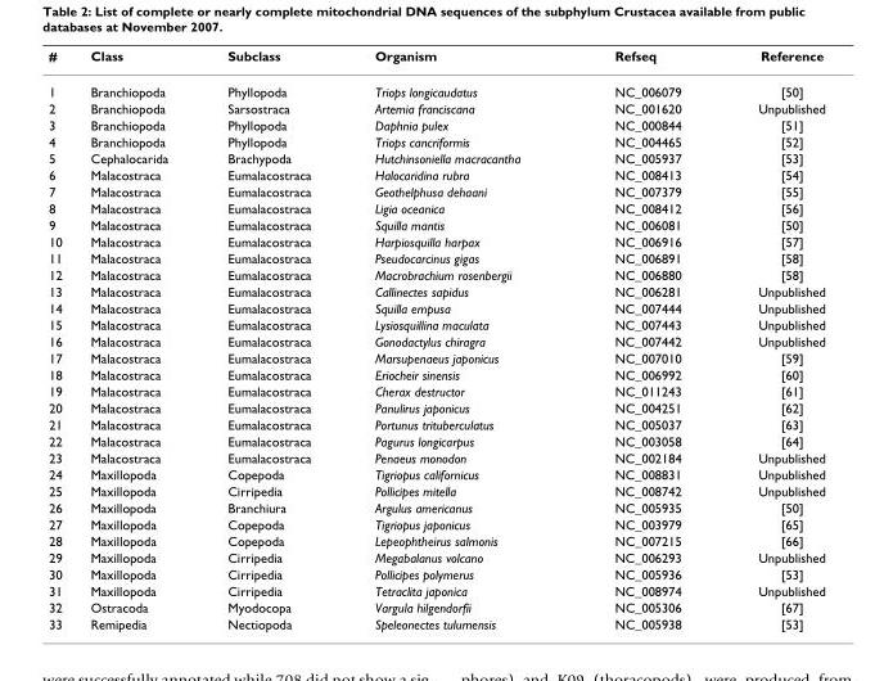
<table><thead><tr><td>#</td><td>Class</td><td>Subclass</td><td>Organism</td><td>Refseq</td><td>Reference</td></tr></thead><tbody><tr><td>1</td><td>Branchiopoda</td><td>Phyllopoda</td><td>Triops longicaudatus</td><td>NC_006079</td><td>[50]</td></tr><tr><td>2</td><td>Branchiopoda</td><td>Sarsostraca</td><td>Artemia franciscana</td><td>NC_001620</td><td>Unpublished</td></tr><tr><td>3</td><td>Branchiopoda</td><td>Phyllopoda</td><td>Daphnia pulex</td><td>NC_000844</td><td>[51]</td></tr><tr><td>4</td><td>Branchiopoda</td><td>Phyllopoda</td><td>Triops cancriformis</td><td>NC_004465</td><td>[52]</td></tr><tr><td>5</td><td>Cephalocarida</td><td>Brachypoda</td><td>Hutchinsoniella macracantha</td><td>NC_005937</td><td>[53]</td></tr><tr><td>6</td><td>Malacostraca</td><td>Eumalacostraca</td><td>Halocaridina rubra</td><td>NC_008413</td><td>[54]</td></tr><tr><td>7</td><td>Malacostraca</td><td>Eumalacostraca</td><td>Geothelphusa dehaani</td><td>NC_007379</td><td>[55]</td></tr><tr><td>8</td><td>Malacostraca</td><td>Eumalacostraca</td><td>Ligia oceanica</td><td>NC_008412</td><td>[56]</td></tr><tr><td>9</td><td>Malacostraca</td><td>Eumalacostraca</td><td>Squilla mantis</td><td>NC_006081</td><td>[50]</td></tr><tr><td>10</td><td>Malacostraca</td><td>Eumalacostraca</td><td>Harpiosquilla harpax</td><td>NC_006916</td><td>[57]</td></tr><tr><td>11</td><td>Malacostraca</td><td>Eumalacostraca</td><td>Pseudocarcinus gigas</td><td>NC_006891</td><td>[58]</td></tr><tr><td>12</td><td>Malacostraca</td><td>Eumalacostraca</td><td>Macrobrachium rosenbergii</td><td>NC_006880</td><td>[58]</td></tr><tr><td>13</td><td>Malacostraca</td><td>Eumalacostraca</td><td>Callinectes sapidus</td><td>NC_006281</td><td>Unpublished</td></tr><tr><td>14</td><td>Malacostraca</td><td>Eumalacostraca</td><td>Squilla empusa</td><td>NC_007444</td><td>Unpublished</td></tr><tr><td>15</td><td>Malacostraca</td><td>Eumalacostraca</td><td>Lysiosquillina maculata</td><td>NC_007443</td><td>Unpublished</td></tr><tr><td>16</td><td>Malacostraca</td><td>Eumalacostraca</td><td>Gonodactylus chiragra</td><td>NC_007442</td><td>Unpublished</td></tr><tr><td>17</td><td>Malacostraca</td><td>Eumalacostraca</td><td>Marsupenaeus japonicus</td><td>NC_007010</td><td>[59]</td></tr><tr><td>18</td><td>Malacostraca</td><td>Eumalacostraca</td><td>Eriocheir sinensis</td><td>NC_006992</td><td>[60]</td></tr><tr><td>19</td><td>Malacostraca</td><td>Eumalacostraca</td><td>Cherax destructor</td><td>NC_011243</td><td>[61]</td></tr><tr><td>20</td><td>Malacostraca</td><td>Eumalacostraca</td><td>Panulirus japonicus</td><td>NC_004251</td><td>[62]</td></tr><tr><td>21</td><td>Malacostraca</td><td>Eumalacostraca</td><td>Portunus trituberculatus</td><td>NC_005037</td><td>[63]</td></tr><tr><td>22</td><td>Malacostraca</td><td>Eumalacostraca</td><td>Pagurus longicarpus</td><td>NC_003058</td><td>[64]</td></tr><tr><td>23</td><td>Malacostraca</td><td>Eumalacostraca</td><td>Penaeus monodon</td><td>NC_002184</td><td>Unpublished</td></tr><tr><td>24</td><td>Maxillopoda</td><td>Copepoda</td><td>Tigriopus californicus</td><td>NC_008831</td><td>Unpublished</td></tr><tr><td>25</td><td>Maxillopoda</td><td>Cirripedia</td><td>Pollicipes mitella</td><td>NC_008742</td><td>Unpublished</td></tr><tr><td>26</td><td>Maxillopoda</td><td>Branchiura</td><td>Argulus americanus</td><td>NC_005935</td><td>[50]</td></tr><tr><td>27</td><td>Maxillopoda</td><td>Copepoda</td><td>Tigriopus japonicus</td><td>NC_003979</td><td>[65]</td></tr><tr><td>28</td><td>Maxillopoda</td><td>Copepoda</td><td>Lepeophtheirus salmonis</td><td>NC_007215</td><td>[66]</td></tr><tr><td>29</td><td>Maxillopoda</td><td>Cirripedia</td><td>Megabalanus volcano</td><td>NC_006293</td><td>Unpublished</td></tr><tr><td>30</td><td>Maxillopoda</td><td>Cirripedia</td><td>Pollicipes polymerus</td><td>NC_005936</td><td>[53]</td></tr><tr><td>31</td><td>Maxillopoda</td><td>Cirripedia</td><td>Tetraclita japonica</td><td>NC_008974</td><td>Unpublished</td></tr><tr><td>32</td><td>Ostracoda</td><td>Myodocopa</td><td>Vargula hilgendorfii</td><td>NC_005306</td><td>[67]</td></tr><tr><td>33</td><td>Remipedia</td><td>Nectiopoda</td><td>Speleonectes tulumensis</td><td>NC_005938</td><td>[53]</td></tr></tbody></table>